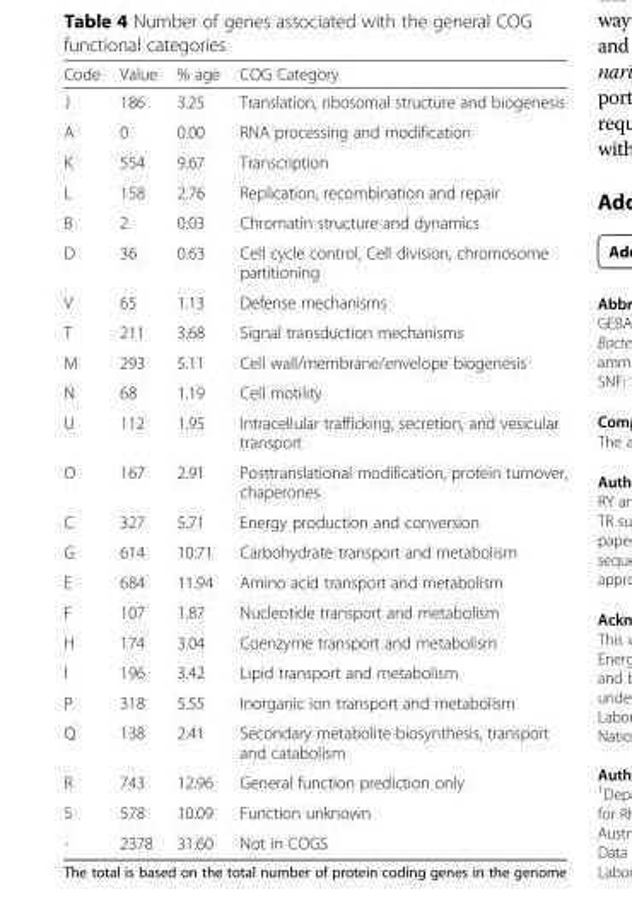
<table><thead><tr><td>Code</td><td>Value</td><td>% age</td><td>COG Category</td></tr></thead><tbody><tr><td>J</td><td>186</td><td>3.25</td><td>Translation, ribosomal structure and biogenesis</td></tr><tr><td>A</td><td>0</td><td>0.00</td><td>RNA processing and modification</td></tr><tr><td>K</td><td>554</td><td>9.67</td><td>Transcription</td></tr><tr><td>L</td><td>158</td><td>2.76</td><td>Replication, recombination and repair</td></tr><tr><td>B</td><td>2</td><td>0.03</td><td>Chromatin structure and dynamics</td></tr><tr><td>D</td><td>36</td><td>0.63</td><td>Cell cycle control, Cell division, chromosome partitioning</td></tr><tr><td>V</td><td>65</td><td>1.13</td><td>Defense mechanisms</td></tr><tr><td>T</td><td>211</td><td>3.68</td><td>Signal transduction mechanisms</td></tr><tr><td>M</td><td>293</td><td>5.11</td><td>Cell wall/membrane/envelope biogenesis</td></tr><tr><td>N</td><td>68</td><td>1.19</td><td>Cell motility</td></tr><tr><td>U</td><td>112</td><td>1.95</td><td>Intracellular trafficking, secretion, and vesicular transport</td></tr><tr><td>O</td><td>167</td><td>2.91</td><td>Posttranslational modification, protein turnover, chaperones</td></tr><tr><td>C</td><td>327</td><td>5.71</td><td>Energy production and conversion</td></tr><tr><td>G</td><td>614</td><td>10.71</td><td>Carbohydrate transport and metabolism</td></tr><tr><td>E</td><td>684</td><td>11.94</td><td>Amino acid transport and metabolism</td></tr><tr><td>F</td><td>107</td><td>1.87</td><td>Nucleotide transport and metabolism</td></tr><tr><td>H</td><td>174</td><td>3.04</td><td>Coenzyme transport and metabolism</td></tr><tr><td>I</td><td>196</td><td>3.42</td><td>Lipid transport and metabolism</td></tr><tr><td>P</td><td>318</td><td>5.55</td><td>Inorganic ion transport and metabolism</td></tr><tr><td>Q</td><td>138</td><td>2.41</td><td>Secondary metabolite biosynthesis, transport and catabolism</td></tr><tr><td>R</td><td>743</td><td>12.96</td><td>General function prediction only</td></tr><tr><td>S</td><td>578</td><td>10.09</td><td>Function unknown</td></tr><tr><td>-</td><td>2378</td><td>31.60</td><td>Not in COGS</td></tr></tbody></table>